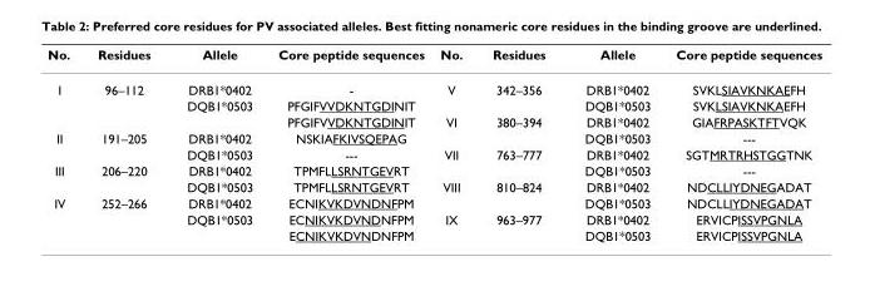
<table><thead><tr><td>No.</td><td>Residues</td><td>Allele</td><td>Core peptide sequences</td><td>No.</td><td>Residues</td><td>Allele</td><td>Core peptide sequences</td></tr></thead><tbody><tr><td rowspan="3">I</td><td>96–112</td><td>DRB1*0402</td><td>-</td><td>V</td><td>342–356</td><td>DRB1*0402</td><td>SVKLSIAVKNKAEFH</td></tr><tr><td></td><td>DQB1*0503</td><td>PFGIFVVDKNTGDINIT</td><td></td><td></td><td>DQB1*0503</td><td>SVKLSIAVKNKAEFH</td></tr><tr><td></td><td></td><td>PFGIFVVDKNTGDINIT</td><td>VI</td><td>380–394</td><td>DRB1*0402</td><td>GIAFRPASKTFTVQK</td></tr><tr><td rowspan="2">II</td><td>191–205</td><td>DRB1*0402</td><td>NSKIAFKIVSQEPAG</td><td></td><td></td><td>DQB1*0503</td><td>---</td></tr><tr><td></td><td>DQB1*0503</td><td>---</td><td>VII</td><td>763–777</td><td>DRB1*0402</td><td>SGTMRTRHSTGGTNK</td></tr><tr><td rowspan="2">III</td><td>206–220</td><td>DRB1*0402</td><td>TPMFLLSRNTGEVRT</td><td></td><td></td><td>DQB1*0503</td><td>---</td></tr><tr><td></td><td>DQB1*0503</td><td>TPMFLLSRNTGEVRT</td><td>VIII</td><td>810–824</td><td>DRB1*0402</td><td>NDCLLIYDNEGADAT</td></tr><tr><td rowspan="3">IV</td><td>252–266</td><td>DRB1*0402</td><td>ECNIKVKDVNDNFPM</td><td></td><td></td><td>DQB1*0503</td><td>NDCLLIYDNEGADAT</td></tr><tr><td></td><td>DQB1*0503</td><td>ECNIKVKDVNDNFPM</td><td>IX</td><td>963–977</td><td>DRB1*0402</td><td>ERVICPISSVPGNLA</td></tr><tr><td></td><td></td><td>ECNIKVKDVNDNFPM</td><td></td><td></td><td>DQB1*0503</td><td>ERVICPISSVPGNLA</td></tr></tbody></table>